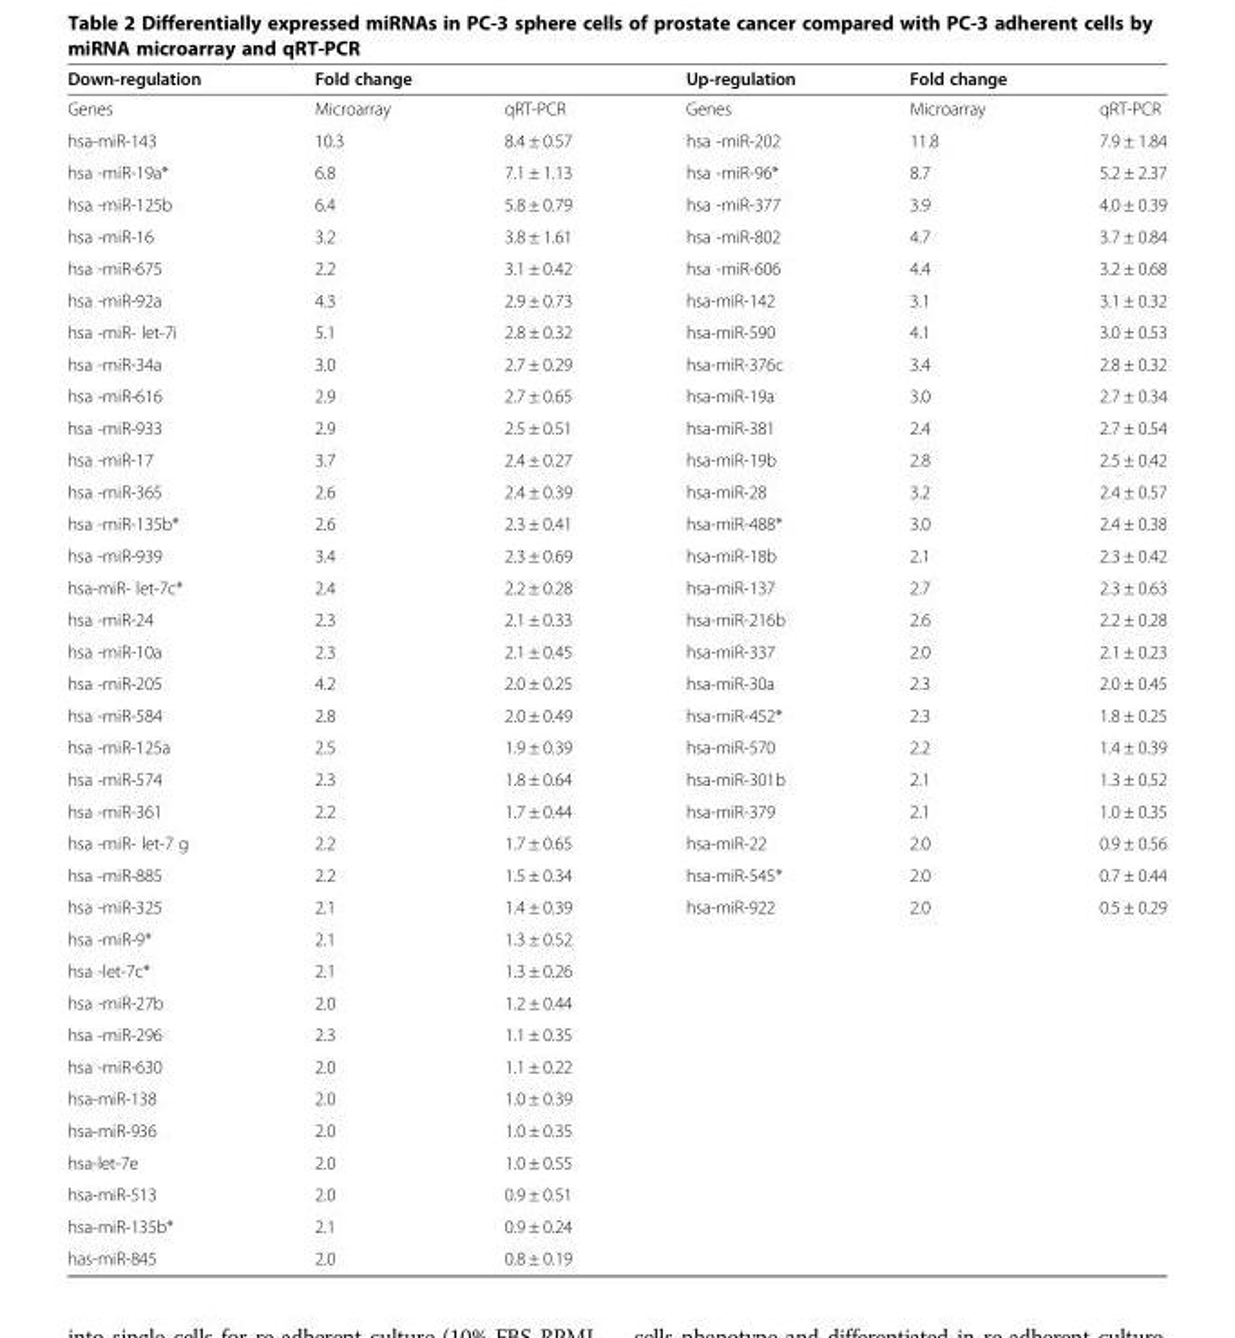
<table><thead><tr><td rowspan="2">Down-regulation Genes</td><td colspan="2">Fold change</td><td rowspan="2">Up-regulation Genes</td><td colspan="2">Fold change</td></tr><tr><td>Microarray</td><td>qRT-PCR</td><td>Microarray</td><td>qRT-PCR</td></tr></thead><tbody><tr><td>hsa-miR-143</td><td>10.3</td><td>8.4 ± 0.57</td><td>hsa -miR-202</td><td>11.8</td><td>7.9 ± 1.84</td></tr><tr><td>hsa -miR-19a*</td><td>6.8</td><td>7.1 ± 1.13</td><td>hsa -miR-96*</td><td>8.7</td><td>5.2 ± 2.37</td></tr><tr><td>hsa -miR-125b</td><td>6.4</td><td>5.8 ± 0.79</td><td>hsa -miR-377</td><td>3.9</td><td>4.0 ± 0.39</td></tr><tr><td>hsa -miR-16</td><td>3.2</td><td>3.8 ± 1.61</td><td>hsa -miR-802</td><td>4.7</td><td>3.7 ± 0.84</td></tr><tr><td>hsa -miR-675</td><td>2.2</td><td>3.1 ± 0.42</td><td>hsa -miR-606</td><td>4.4</td><td>3.2 ± 0.68</td></tr><tr><td>hsa -miR-92a</td><td>4.3</td><td>2.9 ± 0.73</td><td>hsa-miR-142</td><td>3.1</td><td>3.1 ± 0.32</td></tr><tr><td>hsa -miR- let-7i</td><td>5.1</td><td>2.8 ± 0.32</td><td>hsa-miR-590</td><td>4.1</td><td>3.0 ± 0.53</td></tr><tr><td>hsa -miR-34a</td><td>3.0</td><td>2.7 ± 0.29</td><td>hsa-miR-376c</td><td>3.4</td><td>2.8 ± 0.32</td></tr><tr><td>hsa -miR-616</td><td>2.9</td><td>2.7 ± 0.65</td><td>hsa-miR-19a</td><td>3.0</td><td>2.7 ± 0.34</td></tr><tr><td>hsa -miR-933</td><td>2.9</td><td>2.5 ± 0.51</td><td>hsa-miR-381</td><td>2.4</td><td>2.7 ± 0.54</td></tr><tr><td>hsa -miR-17</td><td>3.7</td><td>2.4 ± 0.27</td><td>hsa-miR-19b</td><td>2.8</td><td>2.5 ± 0.42</td></tr><tr><td>hsa -miR-365</td><td>2.6</td><td>2.4 ± 0.39</td><td>hsa-miR-28</td><td>3.2</td><td>2.4 ± 0.57</td></tr><tr><td>hsa -miR-135b*</td><td>2.6</td><td>2.3 ± 0.41</td><td>hsa-miR-488*</td><td>3.0</td><td>2.4 ± 0.38</td></tr><tr><td>hsa -miR-939</td><td>3.4</td><td>2.3 ± 0.69</td><td>hsa-miR-18b</td><td>2.1</td><td>2.3 ± 0.42</td></tr><tr><td>hsa-miR- let-7c*</td><td>2.4</td><td>2.2 ± 0.28</td><td>hsa-miR-137</td><td>2.7</td><td>2.3 ± 0.63</td></tr><tr><td>hsa -miR-24</td><td>2.3</td><td>2.1 ± 0.33</td><td>hsa-miR-216b</td><td>2.6</td><td>2.2 ± 0.28</td></tr><tr><td>hsa -miR-10a</td><td>2.3</td><td>2.1 ± 0.45</td><td>hsa-miR-337</td><td>2.0</td><td>2.1 ± 0.23</td></tr><tr><td>hsa -miR-205</td><td>4.2</td><td>2.0 ± 0.25</td><td>hsa-miR-30a</td><td>2.3</td><td>2.0 ± 0.45</td></tr><tr><td>hsa -miR-584</td><td>2.8</td><td>2.0 ± 0.49</td><td>hsa-miR-452*</td><td>2.3</td><td>1.8 ± 0.25</td></tr><tr><td>hsa -miR-125a</td><td>2.5</td><td>1.9 ± 0.39</td><td>hsa-miR-570</td><td>2.2</td><td>1.4 ± 0.39</td></tr><tr><td>hsa -miR-574</td><td>2.3</td><td>1.8 ± 0.64</td><td>hsa-miR-301b</td><td>2.1</td><td>1.3 ± 0.52</td></tr><tr><td>hsa -miR-361</td><td>2.2</td><td>1.7 ± 0.44</td><td>hsa-miR-379</td><td>2.1</td><td>1.0 ± 0.35</td></tr><tr><td>hsa -miR- let-7 g</td><td>2.2</td><td>1.7 ± 0.65</td><td>hsa-miR-22</td><td>2.0</td><td>0.9 ± 0.56</td></tr><tr><td>hsa -miR-885</td><td>2.2</td><td>1.5 ± 0.34</td><td>hsa-miR-545*</td><td>2.0</td><td>0.7 ± 0.44</td></tr><tr><td>hsa -miR-325</td><td>2.1</td><td>1.4 ± 0.39</td><td>hsa-miR-922</td><td>2.0</td><td>0.5 ± 0.29</td></tr><tr><td>hsa -miR-9*</td><td>2.1</td><td>1.3 ± 0.52</td><td></td><td></td><td></td></tr><tr><td>hsa -let-7c*</td><td>2.1</td><td>1.3 ± 0.26</td><td></td><td></td><td></td></tr><tr><td>hsa -miR-27b</td><td>2.0</td><td>1.2 ± 0.44</td><td></td><td></td><td></td></tr><tr><td>hsa -miR-296</td><td>2.3</td><td>1.1 ± 0.35</td><td></td><td></td><td></td></tr><tr><td>hsa -miR-630</td><td>2.0</td><td>1.1 ± 0.22</td><td></td><td></td><td></td></tr><tr><td>hsa-miR-138</td><td>2.0</td><td>1.0 ± 0.39</td><td></td><td></td><td></td></tr><tr><td>hsa-miR-936</td><td>2.0</td><td>1.0 ± 0.35</td><td></td><td></td><td></td></tr><tr><td>hsa-let-7e</td><td>2.0</td><td>1.0 ± 0.55</td><td></td><td></td><td></td></tr><tr><td>hsa-miR-513</td><td>2.0</td><td>0.9 ± 0.51</td><td></td><td></td><td></td></tr><tr><td>hsa-miR-135b*</td><td>2.1</td><td>0.9 ± 0.24</td><td></td><td></td><td></td></tr><tr><td>has-miR-845</td><td>2.0</td><td>0.8 ± 0.19</td><td></td><td></td><td></td></tr></tbody></table>